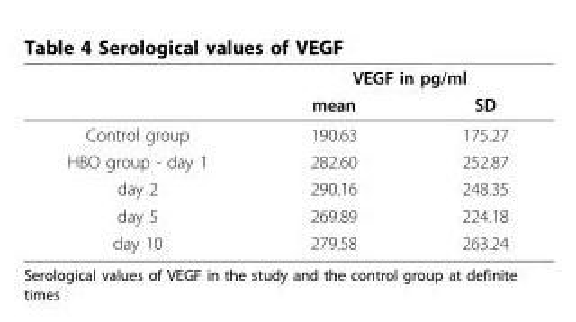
<table><thead><tr><td rowspan="2"></td><td colspan="2">VEGF in pg/ml</td></tr><tr><td>mean</td><td>SD</td></tr></thead><tbody><tr><td>Control group</td><td>190.63</td><td>175.27</td></tr><tr><td>HBO group - day 1</td><td>282.60</td><td>252.87</td></tr><tr><td>day 2</td><td>290.16</td><td>248.35</td></tr><tr><td>day 5</td><td>269.89</td><td>224.18</td></tr><tr><td>day 10</td><td>279.58</td><td>263.24</td></tr></tbody></table>